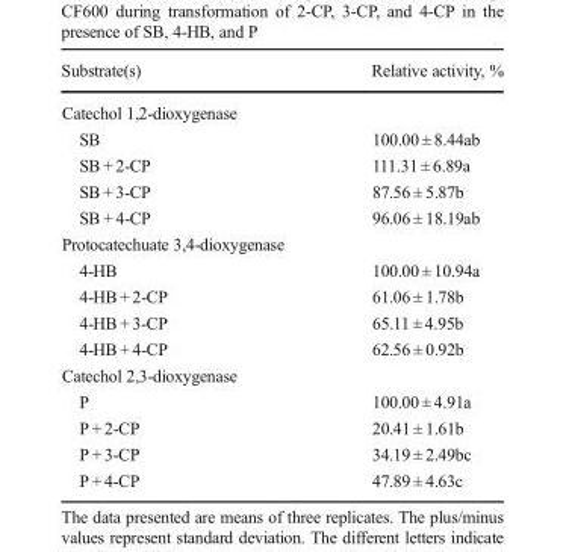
<table><thead><tr><td>Substrate(s)</td><td>Relative activity, %</td></tr></thead><tbody><tr><td colspan="2">Catechol 1,2-dioxygenase</td></tr><tr><td>SB</td><td>100.00 ± 8.44ab</td></tr><tr><td>SB + 2-CP</td><td>111.31 ± 6.89a</td></tr><tr><td>SB + 3-CP</td><td>87.56 ± 5.87b</td></tr><tr><td>SB + 4-CP</td><td>96.06 ± 18.19ab</td></tr><tr><td colspan="2">Protocatechuate 3,4-dioxygenase</td></tr><tr><td>4-HB</td><td>100.00 ± 10.94a</td></tr><tr><td>4-HB + 2-CP</td><td>61.06 ± 1.78b</td></tr><tr><td>4-HB + 3-CP</td><td>65.11 ± 4.95b</td></tr><tr><td>4-HB + 4-CP</td><td>62.56 ± 0.92b</td></tr><tr><td colspan="2">Catechol 2,3-dioxygenase</td></tr><tr><td>P</td><td>100.00 ± 4.91a</td></tr><tr><td>P + 2-CP</td><td>20.41 ± 1.61b</td></tr><tr><td>P + 3-CP</td><td>34.19 ± 2.49bc</td></tr><tr><td>P + 4-CP</td><td>47.89 ± 4.63c</td></tr></tbody></table>